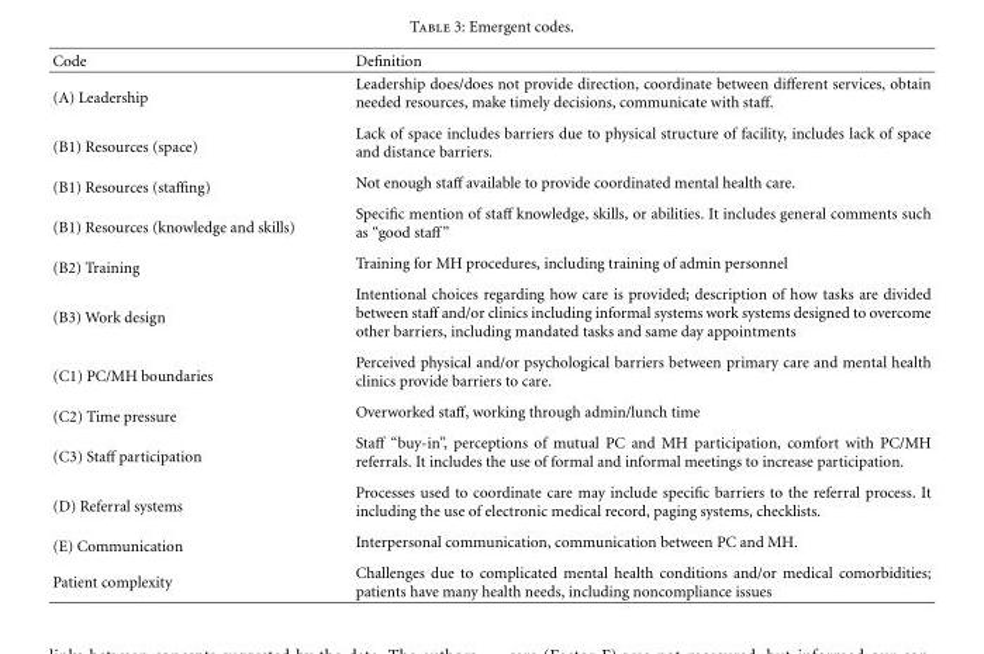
<table><thead><tr><td>Code</td><td>Definition</td></tr></thead><tbody><tr><td>(A) Leadership</td><td>Leadership does/does not provide direction, coordinate between different services, obtain needed resources, make timely decisions, communicate with staff.</td></tr><tr><td>(B1) Resources (space)</td><td>Lack of space includes barriers due to physical structure of facility, includes lack of space and distance barriers.</td></tr><tr><td>(B1) Resources (staffing)</td><td>Not enough staff available to provide coordinated mental health care.</td></tr><tr><td>(B1) Resources (knowledge and skills)</td><td>Specific mention of staff knowledge, skills, or abilities. It includes general comments such as “good staff”</td></tr><tr><td>(B2) Training</td><td>Training for MH procedures, including training of admin personnel</td></tr><tr><td>(B3) Work design</td><td>Intentional choices regarding how care is provided; description of how tasks are divided between staff and/or clinics including informal systems work systems designed to overcome other barriers, including mandated tasks and same day appointments</td></tr><tr><td>(C1) PC/MH boundaries</td><td>Perceived physical and/or psychological barriers between primary care and mental health clinics provide barriers to care.</td></tr><tr><td>(C2) Time pressure</td><td>Overworked staff, working through admin/lunch time</td></tr><tr><td>(C3) Staff participation</td><td>Staff “buy-in”, perceptions of mutual PC and MH participation, comfort with PC/MH referrals. It includes the use of formal and informal meetings to increase participation.</td></tr><tr><td>(D) Referral systems</td><td>Processes used to coordinate care may include specific barriers to the referral process. It including the use of electronic medical record, paging systems, checklists.</td></tr><tr><td>(E) Communication</td><td>Interpersonal communication, communication between PC and MH.</td></tr><tr><td>Patient complexity</td><td>Challenges due to complicated mental health conditions and/or medical comorbidities; patients have many health needs, including noncompliance issues</td></tr></tbody></table>